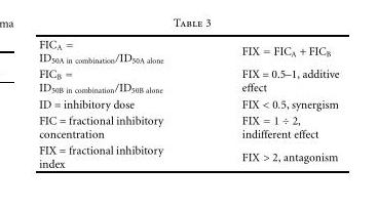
<table><tbody><tr><td>FIC<sub>A</sub> = ID<sub>50A in combination</sub>/ID<sub>50A alone</sub></td><td>FIX = FIC<sub>A</sub> + FIC<sub>B</sub></td></tr><tr><td>FIC<sub>B</sub> = ID<sub>50B in combination</sub>/ID<sub>50B alone</sub></td><td>FIX = 0.5–1, additive effect</td></tr><tr><td>ID = inhibitory dose</td><td>FIX &lt; 0.5, synergism</td></tr><tr><td>FIC = fractional inhibitory concentration</td><td>FIX = 1 ÷ 2, indifferent effect</td></tr><tr><td>FIX = fractional inhibitory index</td><td>FIX &gt; 2, antagonism</td></tr></tbody></table>